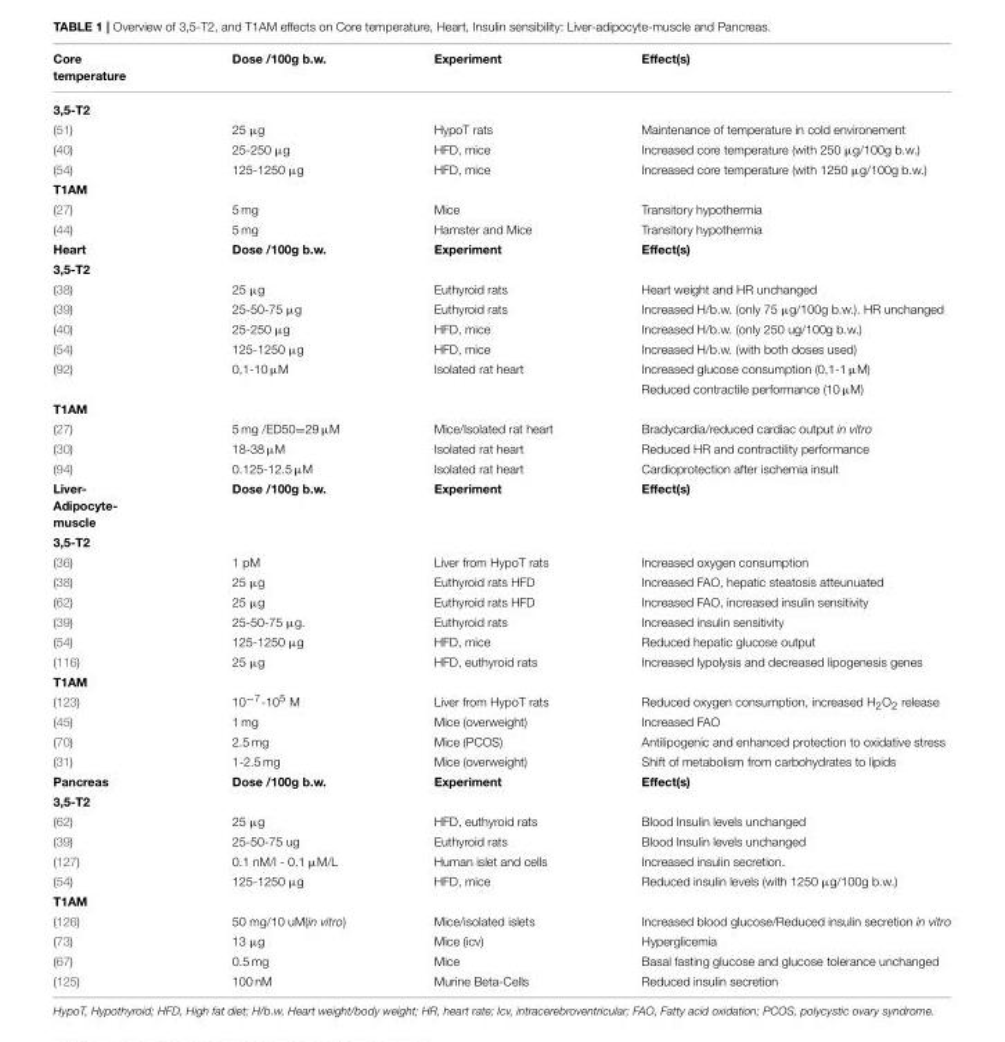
<table><thead><tr><td>Core temperature</td><td>Dose /100g b.w.</td><td>Experiment</td><td>Effect(s)</td></tr></thead><tbody><tr><td colspan="4">3,5-T2</td></tr><tr><td>(51)</td><td>25 µg</td><td>HypoT rats</td><td>Maintenance of temperature in cold environement</td></tr><tr><td>(40)</td><td>25-250 µg</td><td>HFD, mice</td><td>Increased core temperature (with 250 µg/100g b.w.)</td></tr><tr><td>(54)</td><td>125-1250 µg</td><td>HFD, mice</td><td>Increased core temperature (with 1250 µg/100g b.w.)</td></tr><tr><td colspan="4">T1AM</td></tr><tr><td>(27)</td><td>5 mg</td><td>Mice</td><td>Transitory hypothermia</td></tr><tr><td>(44)</td><td>5 mg</td><td>Hamster and Mice</td><td>Transitory hypothermia</td></tr><tr><td>Heart</td><td>Dose /100g b.w.</td><td>Experiment</td><td>Effect(s)</td></tr><tr><td colspan="4">3,5-T2</td></tr><tr><td>(38)</td><td>25 µg</td><td>Euthyroid rats</td><td>Heart weight and HR unchanged</td></tr><tr><td>(39)</td><td>25-50-75 µg</td><td>Euthyroid rats</td><td>Increased H/b.w. (only 75 µg/100g b.w.). HR unchanged</td></tr><tr><td>(40)</td><td>25-250 µg</td><td>HFD, mice</td><td>Increased H/b.w. (only 250 ug/100g b.w.)</td></tr><tr><td>(54)</td><td>125-1250 µg</td><td>HFD, mice</td><td>Increased H/b.w. (with both doses used)</td></tr><tr><td rowspan="2">(92)</td><td>0,1-10 µM</td><td>Isolated rat heart</td><td>Increased glucose consumption (0,1-1 µM)</td></tr><tr><td></td><td></td><td>Reduced contractile performance (10 µM)</td></tr><tr><td colspan="4">T1AM</td></tr><tr><td>(27)</td><td>5 mg /ED50=29 µM</td><td>Mice/Isolated rat heart</td><td>Bradycardia/reduced cardiac output in vitro</td></tr><tr><td>(30)</td><td>18-38 µM</td><td>Isolated rat heart</td><td>Reduced HR and contractility performance</td></tr><tr><td>(94)</td><td>0.125-12.5 µM</td><td>Isolated rat heart</td><td>Cardioprotection after ischemia insult</td></tr><tr><td>Liver- Adipocyte- muscle</td><td>Dose /100g b.w.</td><td>Experiment</td><td>Effect(s)</td></tr><tr><td colspan="4">3,5-T2</td></tr><tr><td>(36)</td><td>1 pM</td><td>Liver from HypoT rats</td><td>Increased oxygen consumption</td></tr><tr><td>(38)</td><td>25 µg</td><td>Euthyroid rats HFD</td><td>Increased FAO, hepatic steatosis atteunuated</td></tr><tr><td>(62)</td><td>25 µg</td><td>Euthyroid rats HFD</td><td>Increased FAO, increased insulin sensitivity</td></tr><tr><td>(39)</td><td>25-50-75 µg.</td><td>Euthyroid rats</td><td>Increased insulin sensitivity</td></tr><tr><td>(54)</td><td>125-1250 µg</td><td>HFD, mice</td><td>Reduced hepatic glucose output</td></tr><tr><td>(116)</td><td>25 µg</td><td>HFD, euthyroid rats</td><td>Increased lypolysis and decreased lipogenesis genes</td></tr><tr><td colspan="4">T1AM</td></tr><tr><td>(123)</td><td>10<sup>−7</sup>-10<sup>5</sup> M</td><td>Liver from HypoT rats</td><td>Reduced oxygen consumption, increased H<sub>2</sub>O<sub>2</sub> release</td></tr><tr><td>(45)</td><td>1 mg</td><td>Mice (overweight)</td><td>Increased FAO</td></tr><tr><td>(70)</td><td>2.5 mg</td><td>Mice (PCOS)</td><td>Antilipogenic and enhanced protection to oxidative stress</td></tr><tr><td>(31)</td><td>1-2.5 mg</td><td>Mice (overweight)</td><td>Shift of metabolism from carbohydrates to lipids</td></tr><tr><td>Pancreas</td><td>Dose /100g b.w.</td><td>Experiment</td><td>Effect(s)</td></tr><tr><td colspan="4">3,5-T2</td></tr><tr><td>(62)</td><td>25 µg</td><td>HFD, euthyroid rats</td><td>Blood Insulin levels unchanged</td></tr><tr><td>(39)</td><td>25-50-75 ug</td><td>Euthyroid rats</td><td>Blood Insulin levels unchanged</td></tr><tr><td>(127)</td><td>0.1 nM/l - 0.1 µM/L</td><td>Human islet and cells</td><td>Increased insulin secretion.</td></tr><tr><td>(54)</td><td>125-1250 µg</td><td>HFD, mice</td><td>Reduced insulin levels (with 1250 µg/100g b.w.)</td></tr><tr><td colspan="4">T1AM</td></tr><tr><td>(126)</td><td>50 mg/10 uM(in vitro)</td><td>Mice/isolated islets</td><td>Increased blood glucose/Reduced insulin secretion in vitro</td></tr><tr><td>(73)</td><td>13 µg</td><td>Mice (icv)</td><td>Hyperglicemia</td></tr><tr><td>(67)</td><td>0.5 mg</td><td>Mice</td><td>Basal fasting glucose and glucose tolerance unchanged</td></tr><tr><td>(125)</td><td>100 nM</td><td>Murine Beta-Cells</td><td>Reduced insulin secretion</td></tr></tbody></table>